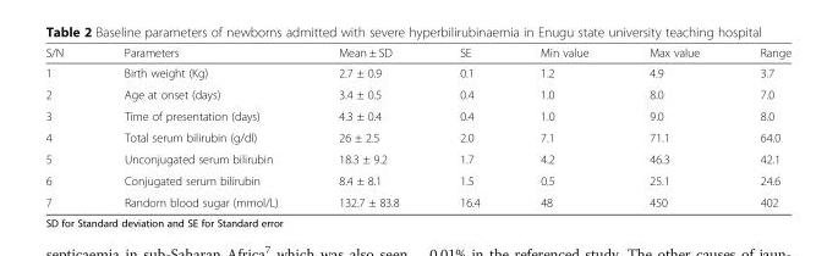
<table><thead><tr><td>S/N</td><td>Parameters</td><td>Mean ± SD</td><td>SE</td><td>Min value</td><td>Max value</td><td>Range</td></tr></thead><tbody><tr><td>1</td><td>Birth weight (Kg)</td><td>2.7 ± 0.9</td><td>0.1</td><td>1.2</td><td>4.9</td><td>3.7</td></tr><tr><td>2</td><td>Age at onset (days)</td><td>3.4 ± 0.5</td><td>0.4</td><td>1.0</td><td>8.0</td><td>7.0</td></tr><tr><td>3</td><td>Time of presentation (days)</td><td>4.3 ± 0.4</td><td>0.4</td><td>1.0</td><td>9.0</td><td>8.0</td></tr><tr><td>4</td><td>Total serum bilirubin (g/dl)</td><td>26 ± 2.5</td><td>2.0</td><td>7.1</td><td>71.1</td><td>64.0</td></tr><tr><td>5</td><td>Unconjugated serum bilirubin</td><td>18.3 ± 9.2</td><td>1.7</td><td>4.2</td><td>46.3</td><td>42.1</td></tr><tr><td>6</td><td>Conjugated serum bilirubin</td><td>8.4 ± 8.1</td><td>1.5</td><td>0.5</td><td>25.1</td><td>24.6</td></tr><tr><td>7</td><td>Random blood sugar (mmol/L)</td><td>132.7 ± 83.8</td><td>16.4</td><td>48</td><td>450</td><td>402</td></tr></tbody></table>